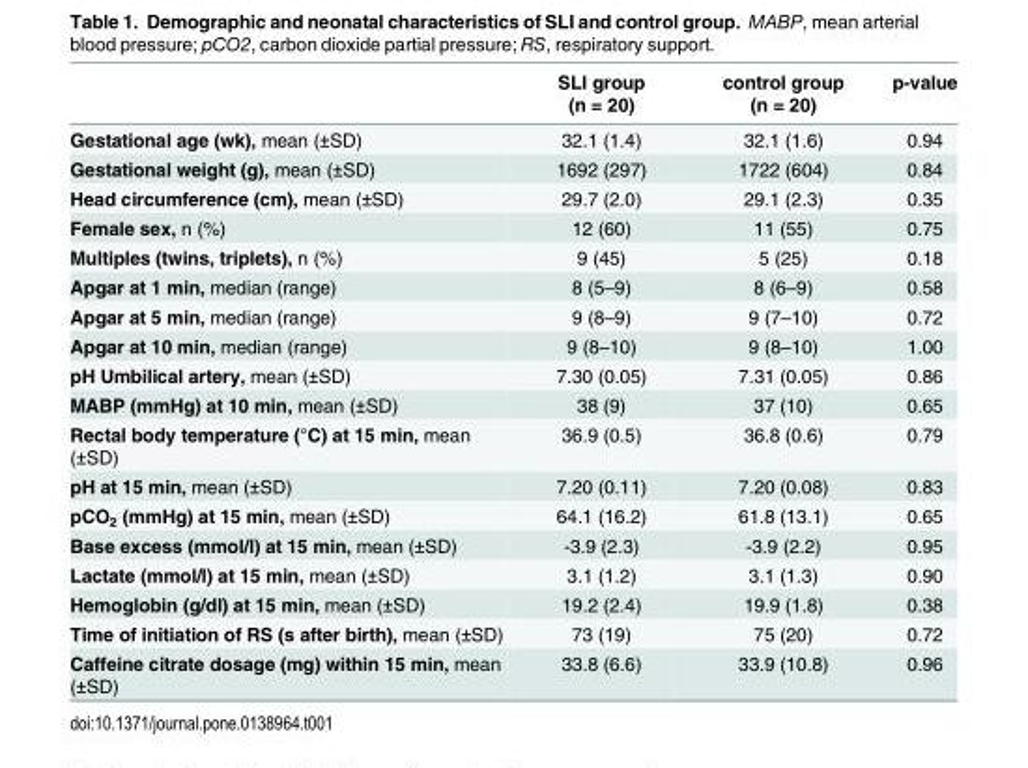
<table><thead><tr><td></td><td>SLI group (n = 20)</td><td>control group (n = 20)</td><td>p-value</td></tr></thead><tbody><tr><td>Gestational age (wk), mean (±SD)</td><td>32.1 (1.4)</td><td>32.1 (1.6)</td><td>0.94</td></tr><tr><td>Gestational weight (g), mean (±SD)</td><td>1692 (297)</td><td>1722 (604)</td><td>0.84</td></tr><tr><td>Head circumference (cm), mean (±SD)</td><td>29.7 (2.0)</td><td>29.1 (2.3)</td><td>0.35</td></tr><tr><td>Female sex, n (%)</td><td>12 (60)</td><td>11 (55)</td><td>0.75</td></tr><tr><td>Multiples (twins, triplets), n (%)</td><td>9 (45)</td><td>5 (25)</td><td>0.18</td></tr><tr><td>Apgar at 1 min, median (range)</td><td>8 (5–9)</td><td>8 (6–9)</td><td>0.58</td></tr><tr><td>Apgar at 5 min, median (range)</td><td>9 (8–9)</td><td>9 (7–10)</td><td>0.72</td></tr><tr><td>Apgar at 10 min, median (range)</td><td>9 (8–10)</td><td>9 (8–10)</td><td>1.00</td></tr><tr><td>pH Umbilical artery, mean (±SD)</td><td>7.30 (0.05)</td><td>7.31 (0.05)</td><td>0.86</td></tr><tr><td>MABP (mmHg) at 10 min, mean (±SD)</td><td>38 (9)</td><td>37 (10)</td><td>0.65</td></tr><tr><td>Rectal body temperature (°C) at 15 min, mean (±SD)</td><td>36.9 (0.5)</td><td>36.8 (0.6)</td><td>0.79</td></tr><tr><td>pH at 15 min, mean (±SD)</td><td>7.20 (0.11)</td><td>7.20 (0.08)</td><td>0.83</td></tr><tr><td>pCO<sub>2</sub> (mmHg) at 15 min, mean (±SD)</td><td>64.1 (16.2)</td><td>61.8 (13.1)</td><td>0.65</td></tr><tr><td>Base excess (mmol/l) at 15 min, mean (±SD)</td><td>-3.9 (2.3)</td><td>-3.9 (2.2)</td><td>0.95</td></tr><tr><td>Lactate (mmol/l) at 15 min, mean (±SD)</td><td>3.1 (1.2)</td><td>3.1 (1.3)</td><td>0.90</td></tr><tr><td>Hemoglobin (g/dl) at 15 min, mean (±SD)</td><td>19.2 (2.4)</td><td>19.9 (1.8)</td><td>0.38</td></tr><tr><td>Time of initiation of RS (s after birth), mean (±SD)</td><td>73 (19)</td><td>75 (20)</td><td>0.72</td></tr><tr><td>Caffeine citrate dosage (mg) within 15 min, mean (±SD)</td><td>33.8 (6.6)</td><td>33.9 (10.8)</td><td>0.96</td></tr></tbody></table>